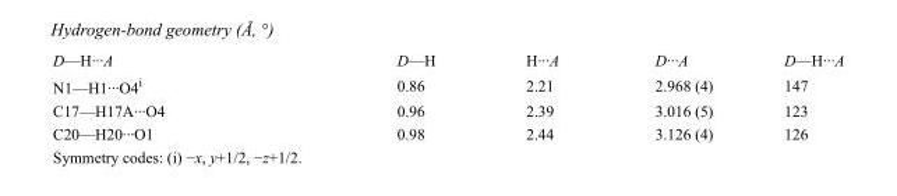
<table><tbody><tr><td>D—H···A</td><td>D—H</td><td>H···A</td><td>D···A</td><td>D—H···A</td></tr><tr><td>N1—H1···O4<sup>i</sup></td><td>0.86</td><td>2.21</td><td>2.968 (4)</td><td>147</td></tr><tr><td>C17—H17A···O4</td><td>0.96</td><td>2.39</td><td>3.016 (5)</td><td>123</td></tr><tr><td>C20—H20···O1</td><td>0.98</td><td>2.44</td><td>3.126 (4)</td><td>126</td></tr></tbody></table>